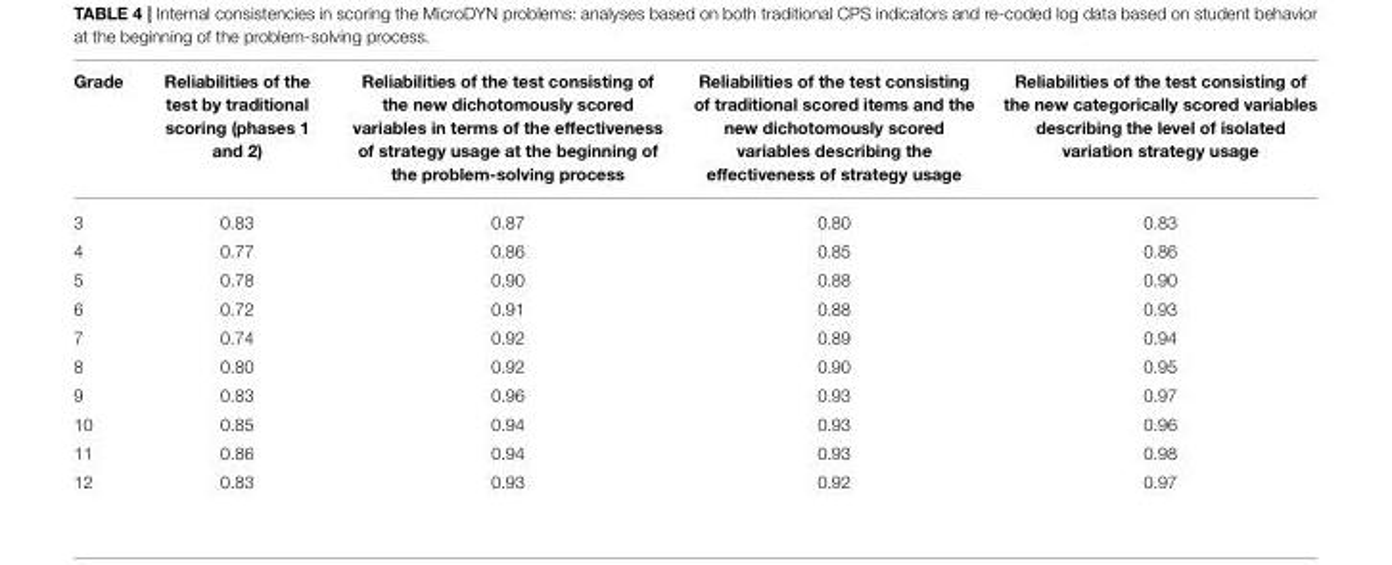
<table><thead><tr><td>Grade</td><td>Reliabilities of the test by traditional scoring (phases 1 and 2)</td><td>Reliabilities of the test consisting of the new dichotomously scored variables in terms of the effectiveness of strategy usage at the beginning of the problem-solving process</td><td>Reliabilities of the test consisting of traditional scored items and the new dichotomously scored variables describing the effectiveness of strategy usage</td><td>Reliabilities of the test consisting of the new categorically scored variables describing the level of isolated variation strategy usage</td></tr></thead><tbody><tr><td>3</td><td>0.83</td><td>0.87</td><td>0.80</td><td>0.83</td></tr><tr><td>4</td><td>0.77</td><td>0.86</td><td>0.85</td><td>0.86</td></tr><tr><td>5</td><td>0.78</td><td>0.90</td><td>0.88</td><td>0.90</td></tr><tr><td>6</td><td>0.72</td><td>0.91</td><td>0.88</td><td>0.93</td></tr><tr><td>7</td><td>0.74</td><td>0.92</td><td>0.89</td><td>0.94</td></tr><tr><td>8</td><td>0.80</td><td>0.92</td><td>0.90</td><td>0.95</td></tr><tr><td>9</td><td>0.83</td><td>0.96</td><td>0.93</td><td>0.97</td></tr><tr><td>10</td><td>0.85</td><td>0.94</td><td>0.93</td><td>0.96</td></tr><tr><td>11</td><td>0.86</td><td>0.94</td><td>0.93</td><td>0.98</td></tr><tr><td>12</td><td>0.83</td><td>0.93</td><td>0.92</td><td>0.97</td></tr></tbody></table>